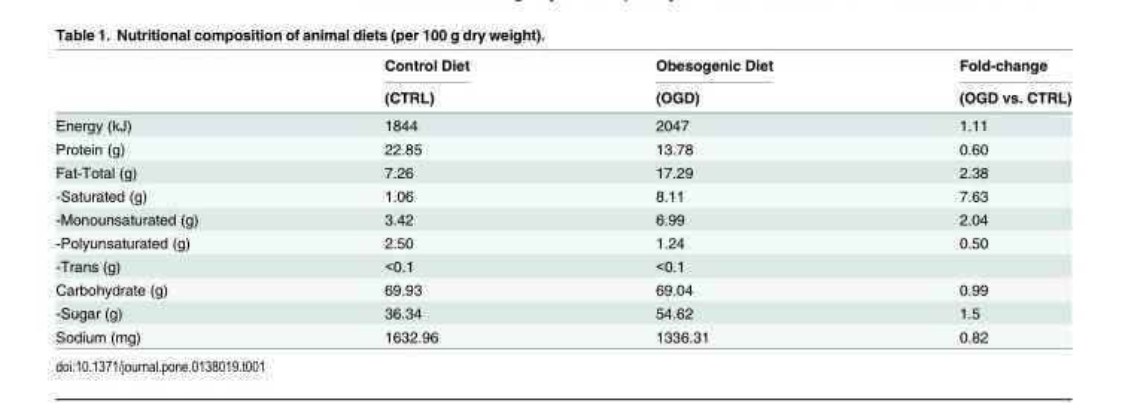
<table><thead><tr><td rowspan="2"></td><td rowspan="2">Control Diet (CTRL)</td><td rowspan="2">Obesogenic Diet (OGD)</td><td rowspan="2">Fold-change (OGD vs. CTRL)</td></tr><tr></tr></thead><tbody><tr><td>Energy (kJ)</td><td>1844</td><td>2047</td><td>1.11</td></tr><tr><td>Protein (g)</td><td>22.85</td><td>13.78</td><td>0.60</td></tr><tr><td>Fat-Total (g)</td><td>7.26</td><td>17.29</td><td>2.38</td></tr><tr><td>-Saturated (g)</td><td>1.06</td><td>8.11</td><td>7.63</td></tr><tr><td>-Monounsaturated (g)</td><td>3.42</td><td>6.99</td><td>2.04</td></tr><tr><td>-Polyunsaturated (g)</td><td>2.50</td><td>1.24</td><td>0.50</td></tr><tr><td>-Trans (g)</td><td>&lt;0.1</td><td>&lt;0.1</td><td></td></tr><tr><td>Carbohydrate (g)</td><td>69.93</td><td>69.04</td><td>0.99</td></tr><tr><td>-Sugar (g)</td><td>36.34</td><td>54.62</td><td>1.5</td></tr><tr><td>Sodium (mg)</td><td>1632.96</td><td>1336.31</td><td>0.82</td></tr></tbody></table>